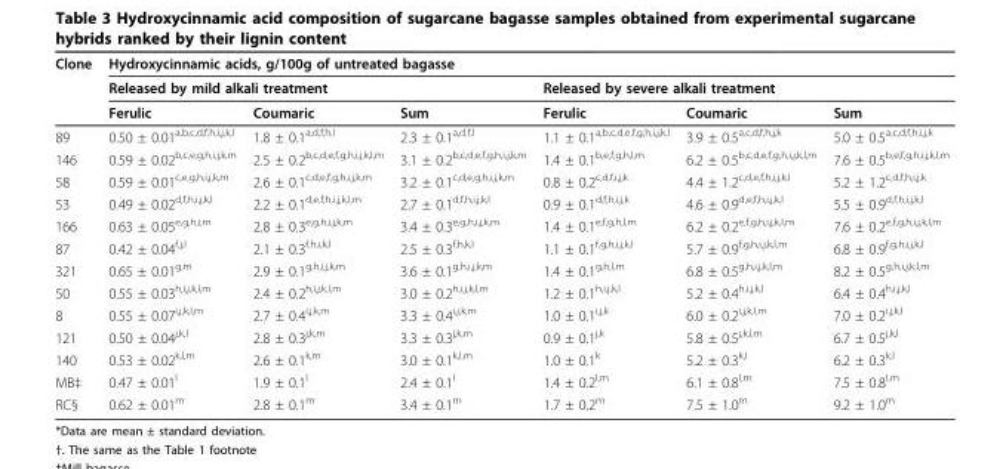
<table><thead><tr><td rowspan="3">Clone</td><td colspan="6">Hydroxycinnamic acids, g/100g of untreated bagasse</td></tr><tr><td colspan="3">Released by mild alkali treatment</td><td colspan="3">Released by severe alkali treatment</td></tr><tr><td>Ferulic</td><td>Coumaric</td><td>Sum</td><td>Ferulic</td><td>Coumaric</td><td>Sum</td></tr></thead><tbody><tr><td>89</td><td>0.50 ± 0.01<sup>a,b,c,d,f,h,i,j,k,l</sup></td><td>1.8 ± 0.1<sup>a,d,f,h,l</sup></td><td>2.3 ± 0.1<sup>a,d,f,l</sup></td><td>1.1 ± 0.1<sup>a,b,c,d,e,f,g,h,i,j,k,l</sup></td><td>3.9 ± 0.5<sup>a,c,d,f,h,j,k</sup></td><td>5.0 ± 0.5<sup>a,c,d,f,h,i,j,k</sup></td></tr><tr><td>146</td><td>0.59 ± 0.02<sup>b,c,e,g,h,i,j,k,m</sup></td><td>2.5 ± 0.2<sup>b,c,d,e,f,g,h,i,j,k,l,m</sup></td><td>3.1 ± 0.2<sup>b,c,d,e,f,g,h,i,j,k,m</sup></td><td>1.4 ± 0.1<sup>b,e,f,g,h,l,m</sup></td><td>6.2 ± 0.5<sup>b,c,d,e,f,g,h,i,j,k,l,m</sup></td><td>7.6 ± 0.5<sup>b,e,f,g,h,i,j,k,l,m</sup></td></tr><tr><td>58</td><td>0.59 ± 0.01<sup>c,e,g,h,i,j,k,m</sup></td><td>2.6 ± 0.1<sup>c,d,e,f,g,h,i,j,k,m</sup></td><td>3.2 ± 0.1<sup>c,d,e,g,h,i,j,k,m</sup></td><td>0.8 ± 0.2<sup>c,d,f,i,j,k</sup></td><td>4.4 ± 1.2<sup>c,d,e,f,h,i,j,k,l</sup></td><td>5.2 ± 1.2<sup>c,d,f,h,i,j,k</sup></td></tr><tr><td>53</td><td>0.49 ± 0.02<sup>d,f,h,i,j,k,l</sup></td><td>2.2 ± 0.1<sup>d,e,f,h,i,j,k,l,m</sup></td><td>2.7 ± 0.1<sup>d,f,h,i,j,k,l</sup></td><td>0.9 ± 0.1<sup>d,f,h,i,j,k</sup></td><td>4.6 ± 0.9<sup>d,e,f,h,i,j,k,l</sup></td><td>5.5 ± 0.9<sup>d,f,h,i,j,k,l</sup></td></tr><tr><td>166</td><td>0.63 ± 0.05<sup>e,g,h,i,m</sup></td><td>2.8 ± 0.3<sup>e,g,h,i,j,k,m</sup></td><td>3.4 ± 0.3<sup>e,g,h,i,j,k,m</sup></td><td>1.4 ± 0.1<sup>e,f,g,h,l,m</sup></td><td>6.2 ± 0.2<sup>e,f,g,h,i,j,k,l,m</sup></td><td>7.6 ± 0.2<sup>e,f,g,h,i,j,k,l,m</sup></td></tr><tr><td>87</td><td>0.42 ± 0.04<sup>f,j,l</sup></td><td>2.1 ± 0.3<sup>f,h,i,k,l</sup></td><td>2.5 ± 0.3<sup>f,h,k,l</sup></td><td>1.1 ± 0.1<sup>f,g,h,i,j,k,l</sup></td><td>5.7 ± 0.9<sup>f,g,h,i,j,k,l,m</sup></td><td>6.8 ± 0.9<sup>f,g,h,i,j,k,l</sup></td></tr><tr><td>321</td><td>0.65 ± 0.01<sup>g,m</sup></td><td>2.9 ± 0.1<sup>g,h,i,j,k,m</sup></td><td>3.6 ± 0.1<sup>g,h,i,j,k,m</sup></td><td>1.4 ± 0.1<sup>g,h,l,m</sup></td><td>6.8 ± 0.5<sup>g,h,i,j,k,l,m</sup></td><td>8.2 ± 0.5<sup>g,h,i,j,k,l,m</sup></td></tr><tr><td>50</td><td>0.55 ± 0.03<sup>h,i,j,k,l,m</sup></td><td>2.4 ± 0.2<sup>h,i,j,k,l,m</sup></td><td>3.0 ± 0.2<sup>h,i,j,k,l,m</sup></td><td>1.2 ± 0.1<sup>h,i,j,k,l</sup></td><td>5.2 ± 0.4<sup>h,i,j,k,l</sup></td><td>6.4 ± 0.4<sup>h,i,j,k,l</sup></td></tr><tr><td>8</td><td>0.55 ± 0.07<sup>i,j,k,l,m</sup></td><td>2.7 ± 0.4<sup>i,j,k,m</sup></td><td>3.3 ± 0.4<sup>i,j,k,m</sup></td><td>1.0 ± 0.1<sup>i,j,k</sup></td><td>6.0 ± 0.2<sup>i,j,k,l,m</sup></td><td>7.0 ± 0.2<sup>i,j,k,l</sup></td></tr><tr><td>121</td><td>0.50 ± 0.04<sup>j,k,l</sup></td><td>2.8 ± 0.3<sup>j,k,m</sup></td><td>3.3 ± 0.3<sup>j,k,m</sup></td><td>0.9 ± 0.1<sup>j,k</sup></td><td>5.8 ± 0.5<sup>j,k,l,m</sup></td><td>6.7 ± 0.5<sup>j,k,l</sup></td></tr><tr><td>140</td><td>0.53 ± 0.02<sup>k,l,m</sup></td><td>2.6 ± 0.1<sup>k,m</sup></td><td>3.0 ± 0.1<sup>k,l,m</sup></td><td>1.0 ± 0.1<sup>k</sup></td><td>5.2 ± 0.3<sup>k,l</sup></td><td>6.2 ± 0.3<sup>k,l</sup></td></tr><tr><td>MB‡</td><td>0.47 ± 0.01<sup>l</sup></td><td>1.9 ± 0.1<sup>l</sup></td><td>2.4 ± 0.1<sup>l</sup></td><td>1.4 ± 0.2<sup>l,m</sup></td><td>6.1 ± 0.8<sup>l,m</sup></td><td>7.5 ± 0.8<sup>l,m</sup></td></tr><tr><td>RC§</td><td>0.62 ± 0.01<sup>m</sup></td><td>2.8 ± 0.1<sup>m</sup></td><td>3.4 ± 0.1<sup>m</sup></td><td>1.7 ± 0.2<sup>m</sup></td><td>7.5 ± 1.0<sup>m</sup></td><td>9.2 ± 1.0<sup>m</sup></td></tr></tbody></table>